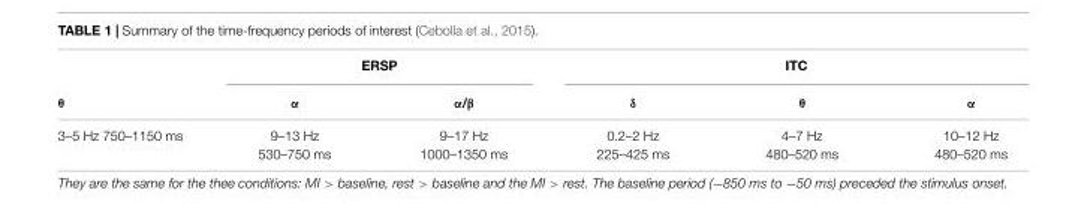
<table><thead><tr><td rowspan="2">θ</td><td colspan="2">ERSP</td><td colspan="3">ITC</td></tr><tr><td>α</td><td>α/β</td><td>δ</td><td>θ</td><td>α</td></tr></thead><tbody><tr><td>3–5 Hz 750–1150 ms</td><td>9–13 Hz 530–750 ms</td><td>9–17 Hz 1000–1350 ms</td><td>0.2–2 Hz 225–425 ms</td><td>4–7 Hz 480–520 ms</td><td>10–12 Hz 480–520 ms</td></tr></tbody></table>